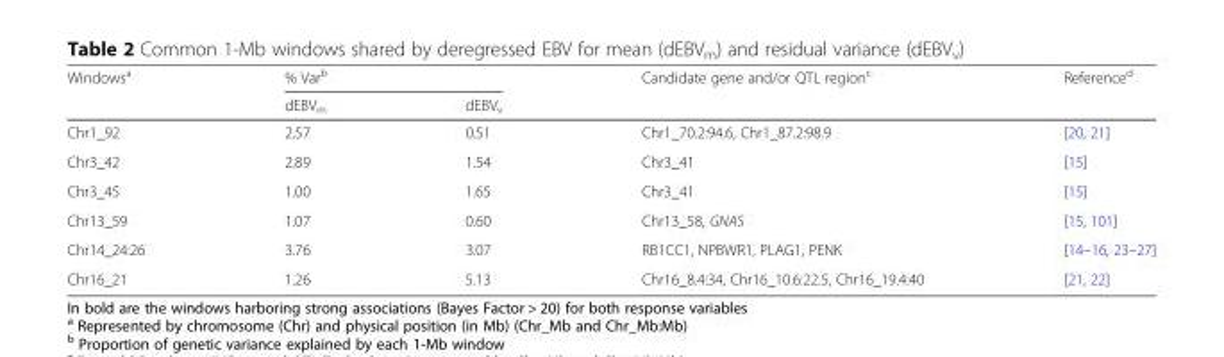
<table><thead><tr><td rowspan="2">Windows<sup>a</sup></td><td colspan="2">% Var<sup>b</sup></td><td rowspan="2">Candidate gene and/or QTL region<sup>c</sup></td><td rowspan="2">Reference<sup>d</sup></td></tr><tr><td>dEBV<sub>m</sub></td><td>dEBV<sub>v</sub></td></tr></thead><tbody><tr><td>Chr1_92</td><td>2.57</td><td>0.51</td><td>Chr1_70.2:94.6, Chr1_87.2:98.9</td><td>[20, 21]</td></tr><tr><td>Chr3_42</td><td>2.89</td><td>1.54</td><td>Chr3_41</td><td>[15]</td></tr><tr><td>Chr3_45</td><td>1.00</td><td>1.65</td><td>Chr3_41</td><td>[15]</td></tr><tr><td>Chr13_59</td><td>1.07</td><td>0.60</td><td>Chr13_58, GNAS</td><td>[15, 101]</td></tr><tr><td>Chr14_24:26</td><td>3.76</td><td>3.07</td><td>RB1CC1, NPBWR1, PLAG1, PENK</td><td>[14–16, 23–27]</td></tr><tr><td>Chr16_21</td><td>1.26</td><td>5.13</td><td>Chr16_8.4:34, Chr16_10.6:22.5, Chr16_19.4:40</td><td>[21, 22]</td></tr></tbody></table>